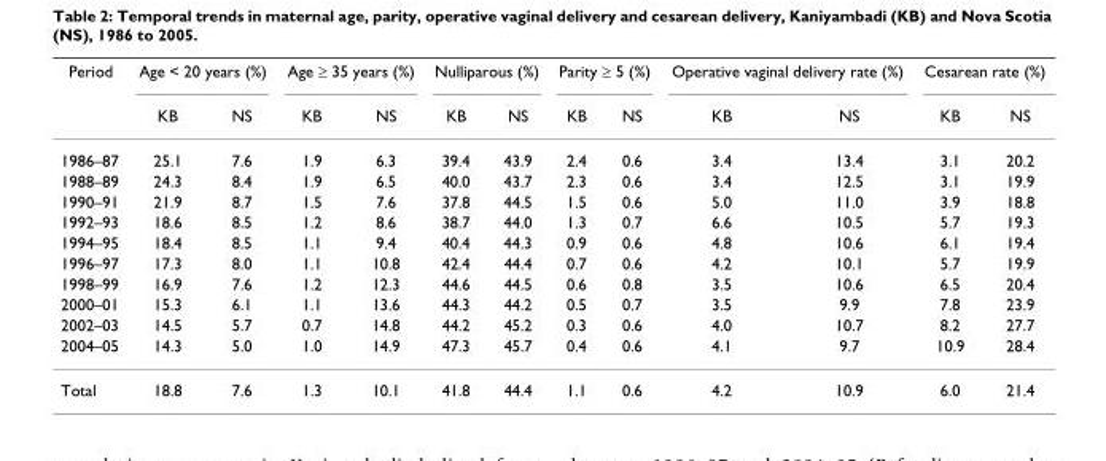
<table><thead><tr><td rowspan="2">Period</td><td colspan="2">Age &lt; 20 years (%)</td><td colspan="2">Age ≥ 35 years (%)</td><td colspan="2">Nulliparous (%)</td><td colspan="2">Parity ≥ 5 (%)</td><td colspan="2">Operative vaginal delivery rate (%)</td><td colspan="2">Cesarean rate (%)</td></tr><tr><td>KB</td><td>NS</td><td>KB</td><td>NS</td><td>KB</td><td>NS</td><td>KB</td><td>NS</td><td>KB</td><td>NS</td><td>KB</td><td>NS</td></tr></thead><tbody><tr><td>1986–87</td><td>25.1</td><td>7.6</td><td>1.9</td><td>6.3</td><td>39.4</td><td>43.9</td><td>2.4</td><td>0.6</td><td>3.4</td><td>13.4</td><td>3.1</td><td>20.2</td></tr><tr><td>1988–89</td><td>24.3</td><td>8.4</td><td>1.9</td><td>6.5</td><td>40.0</td><td>43.7</td><td>2.3</td><td>0.6</td><td>3.4</td><td>12.5</td><td>3.1</td><td>19.9</td></tr><tr><td>1990–91</td><td>21.9</td><td>8.7</td><td>1.5</td><td>7.6</td><td>37.8</td><td>44.5</td><td>1.5</td><td>0.6</td><td>5.0</td><td>11.0</td><td>3.9</td><td>18.8</td></tr><tr><td>1992–93</td><td>18.6</td><td>8.5</td><td>1.2</td><td>8.6</td><td>38.7</td><td>44.0</td><td>1.3</td><td>0.7</td><td>6.6</td><td>10.5</td><td>5.7</td><td>19.3</td></tr><tr><td>1994–95</td><td>18.4</td><td>8.5</td><td>1.1</td><td>9.4</td><td>40.4</td><td>44.3</td><td>0.9</td><td>0.6</td><td>4.8</td><td>10.6</td><td>6.1</td><td>19.4</td></tr><tr><td>1996–97</td><td>17.3</td><td>8.0</td><td>1.1</td><td>10.8</td><td>42.4</td><td>44.4</td><td>0.7</td><td>0.6</td><td>4.2</td><td>10.1</td><td>5.7</td><td>19.9</td></tr><tr><td>1998–99</td><td>16.9</td><td>7.6</td><td>1.2</td><td>12.3</td><td>44.6</td><td>44.5</td><td>0.6</td><td>0.8</td><td>3.5</td><td>10.6</td><td>6.5</td><td>20.4</td></tr><tr><td>2000–01</td><td>15.3</td><td>6.1</td><td>1.1</td><td>13.6</td><td>44.3</td><td>44.2</td><td>0.5</td><td>0.7</td><td>3.5</td><td>9.9</td><td>7.8</td><td>23.9</td></tr><tr><td>2002–03</td><td>14.5</td><td>5.7</td><td>0.7</td><td>14.8</td><td>44.2</td><td>45.2</td><td>0.3</td><td>0.6</td><td>4.0</td><td>10.7</td><td>8.2</td><td>27.7</td></tr><tr><td>2004–05</td><td>14.3</td><td>5.0</td><td>1.0</td><td>14.9</td><td>47.3</td><td>45.7</td><td>0.4</td><td>0.6</td><td>4.1</td><td>9.7</td><td>10.9</td><td>28.4</td></tr><tr><td>Total</td><td>18.8</td><td>7.6</td><td>1.3</td><td>10.1</td><td>41.8</td><td>44.4</td><td>1.1</td><td>0.6</td><td>4.2</td><td>10.9</td><td>6.0</td><td>21.4</td></tr></tbody></table>